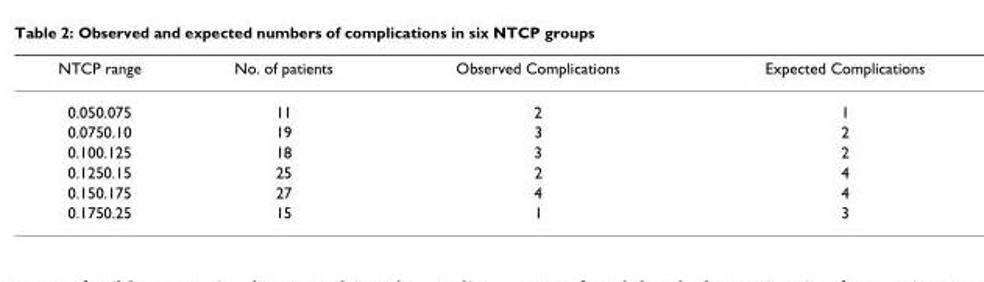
<table><thead><tr><td>NTCP range</td><td>No. of patients</td><td>Observed Complications</td><td>Expected Complications</td></tr></thead><tbody><tr><td>0.050.075</td><td>11</td><td>2</td><td>1</td></tr><tr><td>0.0750.10</td><td>19</td><td>3</td><td>2</td></tr><tr><td>0.100.125</td><td>18</td><td>3</td><td>2</td></tr><tr><td>0.1250.15</td><td>25</td><td>2</td><td>4</td></tr><tr><td>0.150.175</td><td>27</td><td>4</td><td>4</td></tr><tr><td>0.1750.25</td><td>15</td><td>1</td><td>3</td></tr></tbody></table>